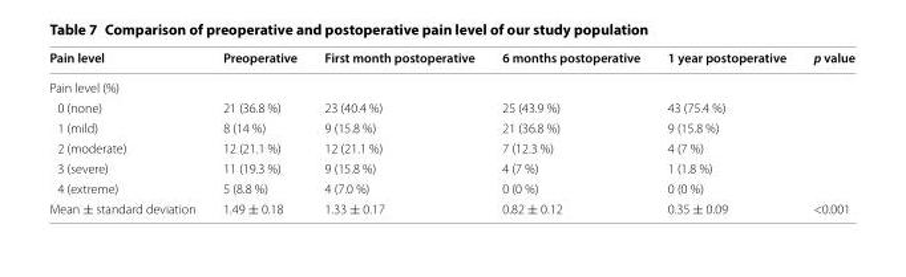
<table><thead><tr><td>Pain level</td><td>Preoperative</td><td>First month postoperative</td><td>6 months postoperative</td><td>1 year postoperative</td><td>p value</td></tr></thead><tbody><tr><td colspan="6">Pain level (%)</td></tr><tr><td>0 (none)</td><td>21 (36.8 %)</td><td>23 (40.4 %)</td><td>25 (43.9 %)</td><td>43 (75.4 %)</td><td></td></tr><tr><td>1 (mild)</td><td>8 (14 %)</td><td>9 (15.8 %)</td><td>21 (36.8 %)</td><td>9 (15.8 %)</td><td></td></tr><tr><td>2 (moderate)</td><td>12 (21.1 %)</td><td>12 (21.1 %)</td><td>7 (12.3 %)</td><td>4 (7 %)</td><td></td></tr><tr><td>3 (severe)</td><td>11 (19.3 %)</td><td>9 (15.8 %)</td><td>4 (7 %)</td><td>1 (1.8 %)</td><td></td></tr><tr><td>4 (extreme)</td><td>5 (8.8 %)</td><td>4 (7.0 %)</td><td>0 (0 %)</td><td>0 (0 %)</td><td></td></tr><tr><td>Mean ± standard deviation</td><td>1.49 ± 0.18</td><td>1.33 ± 0.17</td><td>0.82 ± 0.12</td><td>0.35 ± 0.09</td><td>&lt;0.001</td></tr></tbody></table>